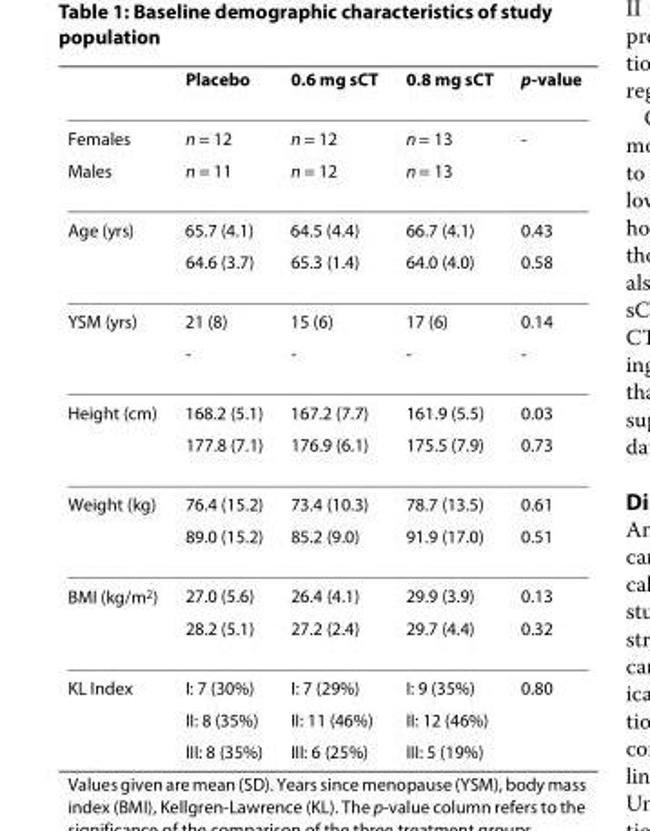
<table><thead><tr><td></td><td>Placebo</td><td>0.6 mg sCT</td><td>0.8 mg sCT</td><td>p-value</td></tr></thead><tbody><tr><td>Females</td><td>n = 12</td><td>n = 12</td><td>n = 13</td><td>-</td></tr><tr><td>Males</td><td>n = 11</td><td>n = 12</td><td>n = 13</td><td></td></tr><tr><td rowspan="2">Age (yrs)</td><td>65.7 (4.1)</td><td>64.5 (4.4)</td><td>66.7 (4.1)</td><td>0.43</td></tr><tr><td>64.6 (3.7)</td><td>65.3 (1.4)</td><td>64.0 (4.0)</td><td>0.58</td></tr><tr><td rowspan="2">YSM (yrs)</td><td>21 (8)</td><td>15 (6)</td><td>17 (6)</td><td>0.14</td></tr><tr><td>-</td><td>-</td><td>-</td><td>-</td></tr><tr><td rowspan="2">Height (cm)</td><td>168.2 (5.1)</td><td>167.2 (7.7)</td><td>161.9 (5.5)</td><td>0.03</td></tr><tr><td>177.8 (7.1)</td><td>176.9 (6.1)</td><td>175.5 (7.9)</td><td>0.73</td></tr><tr><td rowspan="2">Weight (kg)</td><td>76.4 (15.2)</td><td>73.4 (10.3)</td><td>78.7 (13.5)</td><td>0.61</td></tr><tr><td>89.0 (15.2)</td><td>85.2 (9.0)</td><td>91.9 (17.0)</td><td>0.51</td></tr><tr><td rowspan="2">BMI (kg/m<sup>2</sup>)</td><td>27.0 (5.6)</td><td>26.4 (4.1)</td><td>29.9 (3.9)</td><td>0.13</td></tr><tr><td>28.2 (5.1)</td><td>27.2 (2.4)</td><td>29.7 (4.4)</td><td>0.32</td></tr><tr><td rowspan="3">KL Index</td><td>I: 7 (30%)</td><td>I: 7 (29%)</td><td>I: 9 (35%)</td><td>0.80</td></tr><tr><td>II: 8 (35%)</td><td>II: 11 (46%)</td><td>II: 12 (46%)</td><td></td></tr><tr><td>III: 8 (35%)</td><td>III: 6 (25%)</td><td>III: 5 (19%)</td><td></td></tr></tbody></table>